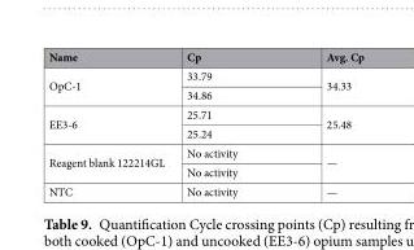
<table><thead><tr><td>Name</td><td>Cp</td><td>Avg. Cp</td></tr></thead><tbody><tr><td rowspan="2">OpC-1</td><td>33.79</td><td rowspan="2">34.33</td></tr><tr><td>34.86</td></tr><tr><td rowspan="2">EE3-6</td><td>25.71</td><td rowspan="2">25.48</td></tr><tr><td>25.24</td></tr><tr><td rowspan="2">Reagent blank 122214GL</td><td>No activity</td><td rowspan="2">—</td></tr><tr><td>No activity</td></tr><tr><td>NTC</td><td>No activity</td><td>—</td></tr></tbody></table>